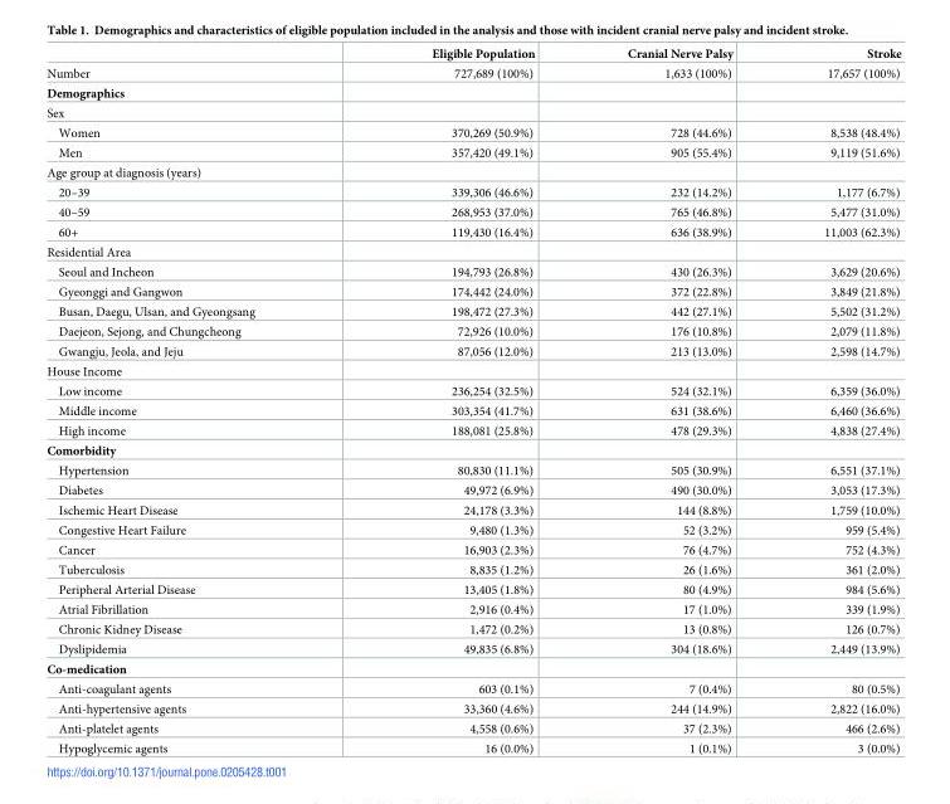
<table><thead><tr><td></td><td>Eligible Population</td><td>Cranial Nerve Palsy</td><td>Stroke</td></tr></thead><tbody><tr><td>Number</td><td>727,689 (100%)</td><td>1,633 (100%)</td><td>17,657 (100%)</td></tr><tr><td colspan="4">Demographics</td></tr><tr><td colspan="4">Sex</td></tr><tr><td>Women</td><td>370,269 (50.9%)</td><td>728 (44.6%)</td><td>8,538 (48.4%)</td></tr><tr><td>Men</td><td>357,420 (49.1%)</td><td>905 (55.4%)</td><td>9,119 (51.6%)</td></tr><tr><td colspan="4">Age group at diagnosis (years)</td></tr><tr><td>20–39</td><td>339,306 (46.6%)</td><td>232 (14.2%)</td><td>1,177 (6.7%)</td></tr><tr><td>40–59</td><td>268,953 (37.0%)</td><td>765 (46.8%)</td><td>5,477 (31.0%)</td></tr><tr><td>60+</td><td>119,430 (16.4%)</td><td>636 (38.9%)</td><td>11,003 (62.3%)</td></tr><tr><td colspan="4">Residential Area</td></tr><tr><td>Seoul and Incheon</td><td>194,793 (26.8%)</td><td>430 (26.3%)</td><td>3,629 (20.6%)</td></tr><tr><td>Gyeonggi and Gangwon</td><td>174,442 (24.0%)</td><td>372 (22.8%)</td><td>3,849 (21.8%)</td></tr><tr><td>Busan, Daegu, Ulsan, and Gyeongsang</td><td>198,472 (27.3%)</td><td>442 (27.1%)</td><td>5,502 (31.2%)</td></tr><tr><td>Daejeon, Sejong, and Chungcheong</td><td>72,926 (10.0%)</td><td>176 (10.8%)</td><td>2,079 (11.8%)</td></tr><tr><td>Gwangju, Jeola, and Jeju</td><td>87,056 (12.0%)</td><td>213 (13.0%)</td><td>2,598 (14.7%)</td></tr><tr><td colspan="4">House Income</td></tr><tr><td>Low income</td><td>236,254 (32.5%)</td><td>524 (32.1%)</td><td>6,359 (36.0%)</td></tr><tr><td>Middle income</td><td>303,354 (41.7%)</td><td>631 (38.6%)</td><td>6,460 (36.6%)</td></tr><tr><td>High income</td><td>188,081 (25.8%)</td><td>478 (29.3%)</td><td>4,838 (27.4%)</td></tr><tr><td colspan="4">Comorbidity</td></tr><tr><td>Hypertension</td><td>80,830 (11.1%)</td><td>505 (30.9%)</td><td>6,551 (37.1%)</td></tr><tr><td>Diabetes</td><td>49,972 (6.9%)</td><td>490 (30.0%)</td><td>3,053 (17.3%)</td></tr><tr><td>Ischemic Heart Disease</td><td>24,178 (3.3%)</td><td>144 (8.8%)</td><td>1,759 (10.0%)</td></tr><tr><td>Congestive Heart Failure</td><td>9,480 (1.3%)</td><td>52 (3.2%)</td><td>959 (5.4%)</td></tr><tr><td>Cancer</td><td>16,903 (2.3%)</td><td>76 (4.7%)</td><td>752 (4.3%)</td></tr><tr><td>Tuberculosis</td><td>8,835 (1.2%)</td><td>26 (1.6%)</td><td>361 (2.0%)</td></tr><tr><td>Peripheral Arterial Disease</td><td>13,405 (1.8%)</td><td>80 (4.9%)</td><td>984 (5.6%)</td></tr><tr><td>Atrial Fibrillation</td><td>2,916 (0.4%)</td><td>17 (1.0%)</td><td>339 (1.9%)</td></tr><tr><td>Chronic Kidney Disease</td><td>1,472 (0.2%)</td><td>13 (0.8%)</td><td>126 (0.7%)</td></tr><tr><td>Dyslipidemia</td><td>49,835 (6.8%)</td><td>304 (18.6%)</td><td>2,449 (13.9%)</td></tr><tr><td colspan="4">Co-medication</td></tr><tr><td>Anti-coagulant agents</td><td>603 (0.1%)</td><td>7 (0.4%)</td><td>80 (0.5%)</td></tr><tr><td>Anti-hypertensive agents</td><td>33,360 (4.6%)</td><td>244 (14.9%)</td><td>2,822 (16.0%)</td></tr><tr><td>Anti-platelet agents</td><td>4,558 (0.6%)</td><td>37 (2.3%)</td><td>466 (2.6%)</td></tr><tr><td>Hypoglycemic agents</td><td>16 (0.0%)</td><td>1 (0.1%)</td><td>3 (0.0%)</td></tr></tbody></table>